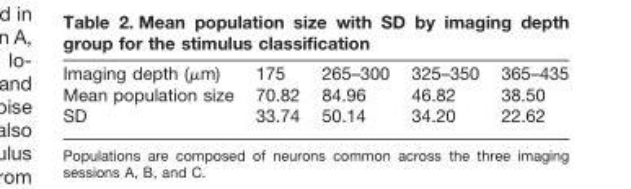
<table><tbody><tr><td>Imaging depth (µm)</td><td>175</td><td>265–300</td><td>325–350</td><td>365–435</td></tr><tr><td>Mean population size</td><td>70.82</td><td>84.96</td><td>46.82</td><td>38.50</td></tr><tr><td>SD</td><td>33.74</td><td>50.14</td><td>34.20</td><td>22.62</td></tr></tbody></table>